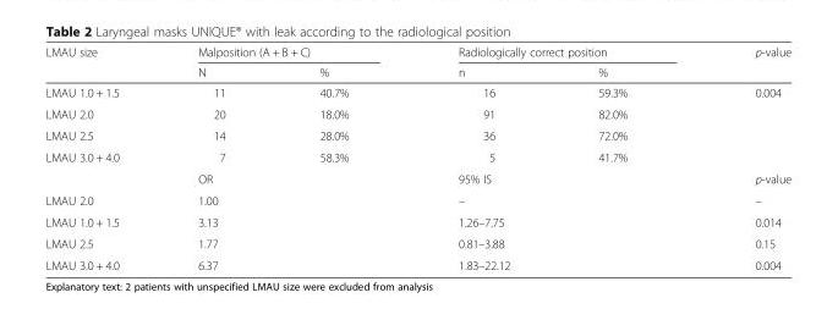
<table><thead><tr><td rowspan="2">LMAU size</td><td colspan="2">Malposition (A + B + C)</td><td colspan="2">Radiologically correct position</td><td rowspan="2">p-value</td></tr><tr><td>N</td><td>%</td><td>n</td><td>%</td></tr></thead><tbody><tr><td>LMAU 1.0 + 1.5</td><td>11</td><td>40.7%</td><td>16</td><td>59.3%</td><td rowspan="4">0.004</td></tr><tr><td>LMAU 2.0</td><td>20</td><td>18.0%</td><td>91</td><td>82.0%</td></tr><tr><td>LMAU 2.5</td><td>14</td><td>28.0%</td><td>36</td><td>72.0%</td></tr><tr><td rowspan="2">LMAU 3.0 + 4.0</td><td>7</td><td>58.3%</td><td>5</td><td>41.7%</td></tr><tr><td colspan="2">OR</td><td colspan="2">95% IS</td><td>p-value</td></tr><tr><td>LMAU 2.0</td><td colspan="2">1.00</td><td colspan="2">–</td><td>–</td></tr><tr><td>LMAU 1.0 + 1.5</td><td colspan="2">3.13</td><td colspan="2">1.26–7.75</td><td>0.014</td></tr><tr><td>LMAU 2.5</td><td colspan="2">1.77</td><td colspan="2">0.81–3.88</td><td>0.15</td></tr><tr><td>LMAU 3.0 + 4.0</td><td colspan="2">6.37</td><td colspan="2">1.83–22.12</td><td>0.004</td></tr></tbody></table>